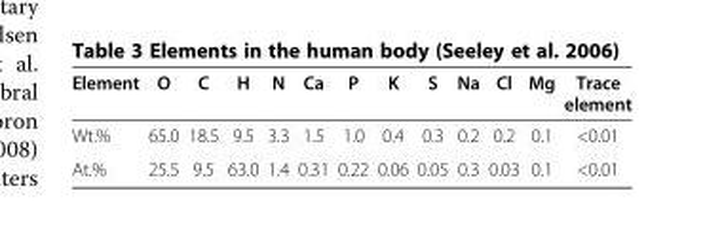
<table><thead><tr><td>Element</td><td>O</td><td>C</td><td>H</td><td>N</td><td>Ca</td><td>P</td><td>K</td><td>S</td><td>Na</td><td>Cl</td><td>Mg</td><td>Trace element</td></tr></thead><tbody><tr><td>Wt.%</td><td>65.0</td><td>18.5</td><td>9.5</td><td>3.3</td><td>1.5</td><td>1.0</td><td>0.4</td><td>0.3</td><td>0.2</td><td>0.2</td><td>0.1</td><td>&lt;0.01</td></tr><tr><td>At.%</td><td>25.5</td><td>9.5</td><td>63.0</td><td>1.4</td><td>0.31</td><td>0.22</td><td>0.06</td><td>0.05</td><td>0.3</td><td>0.03</td><td>0.1</td><td>&lt;0.01</td></tr></tbody></table>